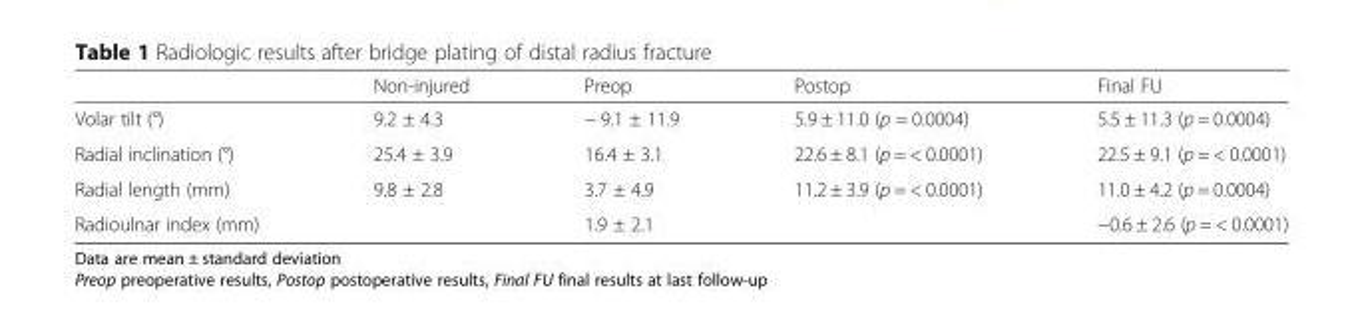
<table><thead><tr><td></td><td>Non-injured</td><td>Preop</td><td>Postop</td><td>Final FU</td></tr></thead><tbody><tr><td>Volar tilt (°)</td><td>9.2 ± 4.3</td><td>− 9.1 ± 11.9</td><td>5.9 ± 11.0 (p = 0.0004)</td><td>5.5 ± 11.3 (p = 0.0004)</td></tr><tr><td>Radial inclination (°)</td><td>25.4 ± 3.9</td><td>16.4 ± 3.1</td><td>22.6 ± 8.1 (p = &lt; 0.0001)</td><td>22.5 ± 9.1 (p = &lt; 0.0001)</td></tr><tr><td>Radial length (mm)</td><td>9.8 ± 2.8</td><td>3.7 ± 4.9</td><td>11.2 ± 3.9 (p = &lt; 0.0001)</td><td>11.0 ± 4.2 (p = 0.0004)</td></tr><tr><td>Radioulnar index (mm)</td><td></td><td>1.9 ± 2.1</td><td></td><td>−0.6 ± 2.6 (p = &lt; 0.0001)</td></tr></tbody></table>